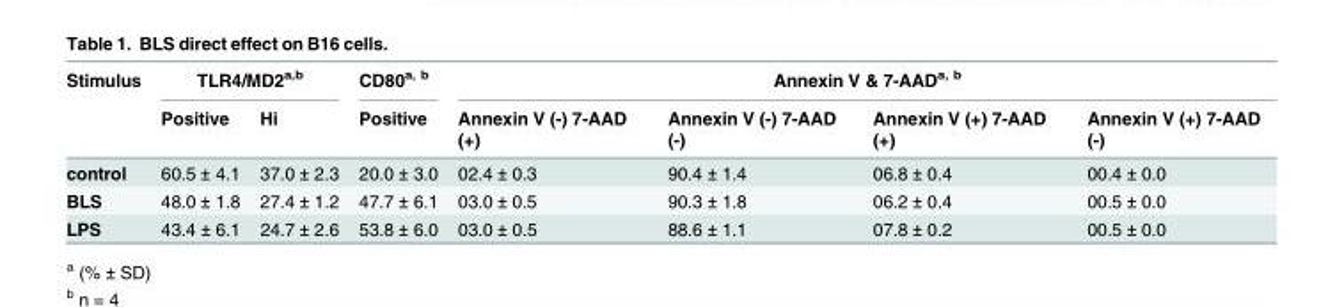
<table><thead><tr><td rowspan="2">Stimulus</td><td colspan="2">TLR4/MD2<sup>a,b</sup></td><td rowspan="2">CD80<sup>a, b</sup> Positive</td><td colspan="4">Annexin V &amp; 7-AAD<sup>a, b</sup></td></tr><tr><td>Positive</td><td>Hi</td><td>Annexin V (-) 7-AAD (+)</td><td>Annexin V (-) 7-AAD (-)</td><td>Annexin V (+) 7-AAD (+)</td><td>Annexin V (+) 7-AAD (-)</td></tr></thead><tbody><tr><td>control</td><td>60.5 ± 4.1</td><td>37.0 ± 2.3</td><td>20.0 ± 3.0</td><td>02.4 ± 0.3</td><td>90.4 ± 1.4</td><td>06.8 ± 0.4</td><td>00.4 ± 0.0</td></tr><tr><td>BLS</td><td>48.0 ± 1.8</td><td>27.4 ± 1.2</td><td>47.7 ± 6.1</td><td>03.0 ± 0.5</td><td>90.3 ± 1.8</td><td>06.2 ± 0.4</td><td>00.5 ± 0.0</td></tr><tr><td>LPS</td><td>43.4 ± 6.1</td><td>24.7 ± 2.6</td><td>53.8 ± 6.0</td><td>03.0 ± 0.5</td><td>88.6 ± 1.1</td><td>07.8 ± 0.2</td><td>00.5 ± 0.0</td></tr></tbody></table>